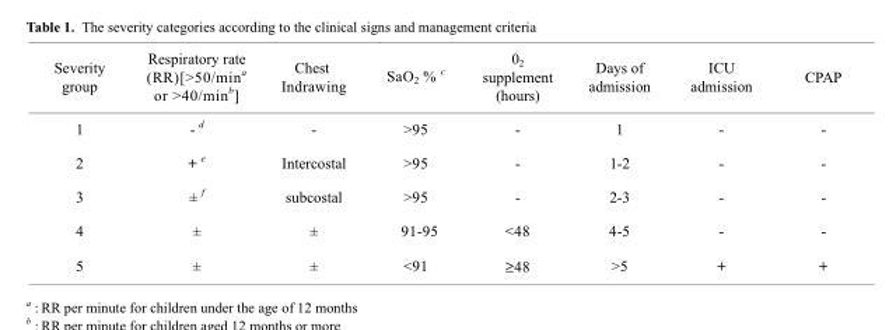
<table><thead><tr><td>Severity group</td><td>Respiratory rate (RR)[&gt;50/min<sup>a</sup> or &gt;40/min<sup>b</sup>]</td><td>Chest Indrawing</td><td>SaO<sub>2</sub> % <sup>c</sup></td><td>0<sub>2</sub> supplement (hours)</td><td>Days of admission</td><td>ICU admission</td><td>CPAP</td></tr></thead><tbody><tr><td>1</td><td>- <sup>d</sup></td><td>-</td><td>&gt;95</td><td>-</td><td>1</td><td>-</td><td>-</td></tr><tr><td>2</td><td>+ <sup>e</sup></td><td>Intercostal</td><td>&gt;95</td><td>-</td><td>1-2</td><td>-</td><td>-</td></tr><tr><td>3</td><td>± <sup>f</sup></td><td>subcostal</td><td>&gt;95</td><td>-</td><td>2-3</td><td>-</td><td>-</td></tr><tr><td>4</td><td>±</td><td>±</td><td>91-95</td><td>&lt;48</td><td>4-5</td><td>-</td><td>-</td></tr><tr><td>5</td><td>±</td><td>±</td><td>&lt;91</td><td>≥48</td><td>&gt;5</td><td>+</td><td>+</td></tr></tbody></table>